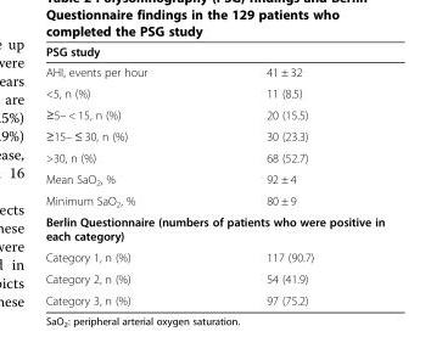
<table><thead><tr><td>PSG study</td><td></td></tr></thead><tbody><tr><td>AHI, events per hour</td><td>41 ± 32</td></tr><tr><td>&lt;5, n (%)</td><td>11 (8.5)</td></tr><tr><td>≥5– &lt; 15, n (%)</td><td>20 (15.5)</td></tr><tr><td>≥15– ≤ 30, n (%)</td><td>30 (23.3)</td></tr><tr><td>&gt;30, n (%)</td><td>68 (52.7)</td></tr><tr><td>Mean SaO<sub>2</sub>, %</td><td>92 ± 4</td></tr><tr><td>Minimum SaO<sub>2</sub>, %</td><td>80 ± 9</td></tr><tr><td colspan="2">Berlin Questionnaire (numbers of patients who were positive in each category)</td></tr><tr><td>Category 1, n (%)</td><td>117 (90.7)</td></tr><tr><td>Category 2, n (%)</td><td>54 (41.9)</td></tr><tr><td>Category 3, n (%)</td><td>97 (75.2)</td></tr></tbody></table>